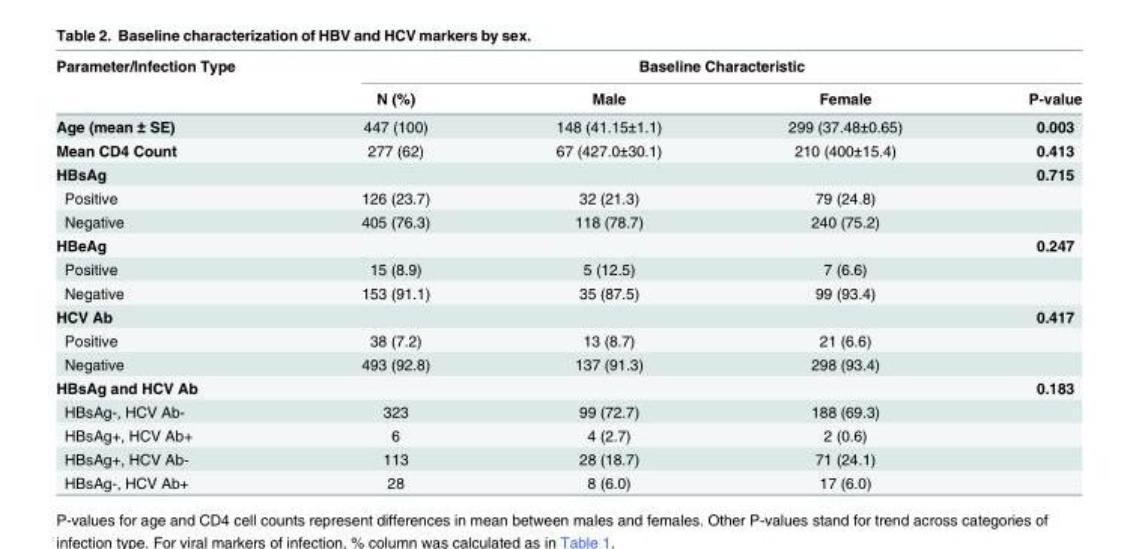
<table><thead><tr><td rowspan="2">Parameter/Infection Type</td><td colspan="4">Baseline Characteristic</td></tr><tr><td>N (%)</td><td>Male</td><td>Female</td><td>P-value</td></tr></thead><tbody><tr><td>Age (mean ± SE)</td><td>447 (100)</td><td>148 (41.15±1.1)</td><td>299 (37.48±0.65)</td><td>0.003</td></tr><tr><td>Mean CD4 Count</td><td>277 (62)</td><td>67 (427.0±30.1)</td><td>210 (400±15.4)</td><td>0.413</td></tr><tr><td>HBsAg</td><td></td><td></td><td></td><td>0.715</td></tr><tr><td>Positive</td><td>126 (23.7)</td><td>32 (21.3)</td><td>79 (24.8)</td><td></td></tr><tr><td>Negative</td><td>405 (76.3)</td><td>118 (78.7)</td><td>240 (75.2)</td><td></td></tr><tr><td>HBeAg</td><td></td><td></td><td></td><td>0.247</td></tr><tr><td>Positive</td><td>15 (8.9)</td><td>5 (12.5)</td><td>7 (6.6)</td><td></td></tr><tr><td>Negative</td><td>153 (91.1)</td><td>35 (87.5)</td><td>99 (93.4)</td><td></td></tr><tr><td>HCV Ab</td><td></td><td></td><td></td><td>0.417</td></tr><tr><td>Positive</td><td>38 (7.2)</td><td>13 (8.7)</td><td>21 (6.6)</td><td></td></tr><tr><td>Negative</td><td>493 (92.8)</td><td>137 (91.3)</td><td>298 (93.4)</td><td></td></tr><tr><td>HBsAg and HCV Ab</td><td></td><td></td><td></td><td>0.183</td></tr><tr><td>HBsAg-, HCV Ab-</td><td>323</td><td>99 (72.7)</td><td>188 (69.3)</td><td></td></tr><tr><td>HBsAg+, HCV Ab+</td><td>6</td><td>4 (2.7)</td><td>2 (0.6)</td><td></td></tr><tr><td>HBsAg+, HCV Ab-</td><td>113</td><td>28 (18.7)</td><td>71 (24.1)</td><td></td></tr><tr><td>HBsAg-, HCV Ab+</td><td>28</td><td>8 (6.0)</td><td>17 (6.0)</td><td></td></tr></tbody></table>